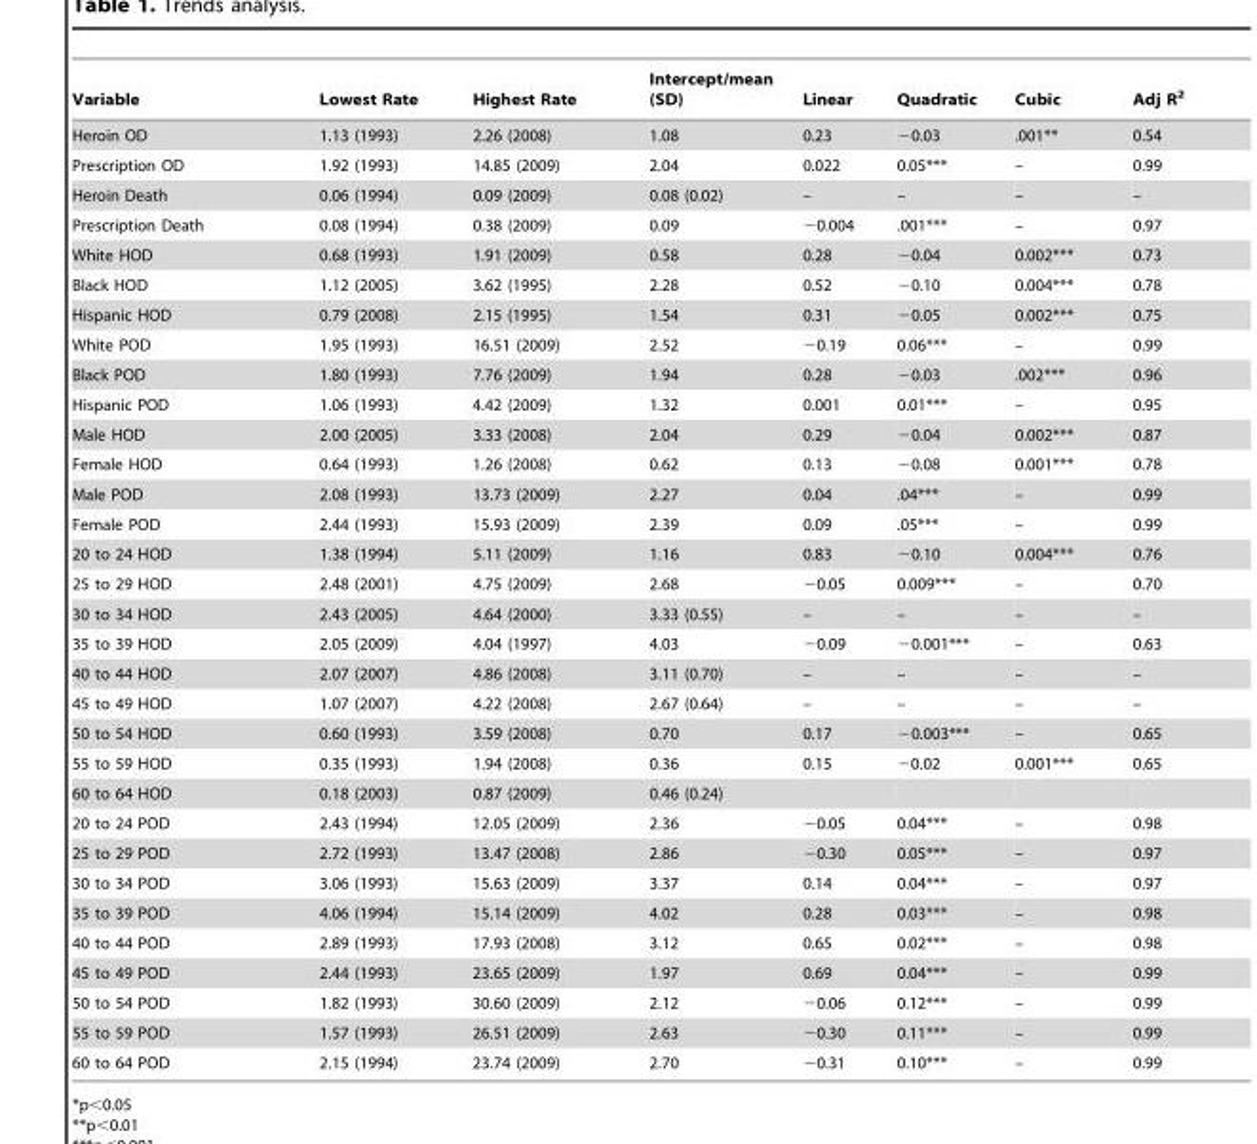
<table><thead><tr><td>Variable</td><td>Lowest Rate</td><td>Highest Rate</td><td>Intercept/mean (SD)</td><td>Linear</td><td>Quadratic</td><td>Cubic</td><td>Adj R<sup>2</sup></td></tr></thead><tbody><tr><td>Heroin OD</td><td>1.13 (1993)</td><td>2.26 (2008)</td><td>1.08</td><td>0.23</td><td>−0.03</td><td>.001**</td><td>0.54</td></tr><tr><td>Prescription OD</td><td>1.92 (1993)</td><td>14.85 (2009)</td><td>2.04</td><td>0.022</td><td>0.05***</td><td>–</td><td>0.99</td></tr><tr><td>Heroin Death</td><td>0.06 (1994)</td><td>0.09 (2009)</td><td>0.08 (0.02)</td><td>–</td><td>–</td><td>–</td><td>–</td></tr><tr><td>Prescription Death</td><td>0.08 (1994)</td><td>0.38 (2009)</td><td>0.09</td><td>−0.004</td><td>.001***</td><td>–</td><td>0.97</td></tr><tr><td>White HOD</td><td>0.68 (1993)</td><td>1.91 (2009)</td><td>0.58</td><td>0.28</td><td>−0.04</td><td>0.002***</td><td>0.73</td></tr><tr><td>Black HOD</td><td>1.12 (2005)</td><td>3.62 (1995)</td><td>2.28</td><td>0.52</td><td>−0.10</td><td>0.004***</td><td>0.78</td></tr><tr><td>Hispanic HOD</td><td>0.79 (2008)</td><td>2.15 (1995)</td><td>1.54</td><td>0.31</td><td>−0.05</td><td>0.002***</td><td>0.75</td></tr><tr><td>White POD</td><td>1.95 (1993)</td><td>16.51 (2009)</td><td>2.52</td><td>−0.19</td><td>0.06***</td><td>–</td><td>0.99</td></tr><tr><td>Black POD</td><td>1.80 (1993)</td><td>7.76 (2009)</td><td>1.94</td><td>0.28</td><td>−0.03</td><td>.002***</td><td>0.96</td></tr><tr><td>Hispanic POD</td><td>1.06 (1993)</td><td>4.42 (2009)</td><td>1.32</td><td>0.001</td><td>0.01***</td><td>–</td><td>0.95</td></tr><tr><td>Male HOD</td><td>2.00 (2005)</td><td>3.33 (2008)</td><td>2.04</td><td>0.29</td><td>−0.04</td><td>0.002***</td><td>0.87</td></tr><tr><td>Female HOD</td><td>0.64 (1993)</td><td>1.26 (2008)</td><td>0.62</td><td>0.13</td><td>−0.08</td><td>0.001***</td><td>0.78</td></tr><tr><td>Male POD</td><td>2.08 (1993)</td><td>13.73 (2009)</td><td>2.27</td><td>0.04</td><td>.04***</td><td>–</td><td>0.99</td></tr><tr><td>Female POD</td><td>2.44 (1993)</td><td>15.93 (2009)</td><td>2.39</td><td>0.09</td><td>.05***</td><td>–</td><td>0.99</td></tr><tr><td>20 to 24 HOD</td><td>1.38 (1994)</td><td>5.11 (2009)</td><td>1.16</td><td>0.83</td><td>−0.10</td><td>0.004***</td><td>0.76</td></tr><tr><td>25 to 29 HOD</td><td>2.48 (2001)</td><td>4.75 (2009)</td><td>2.68</td><td>−0.05</td><td>0.009***</td><td>–</td><td>0.70</td></tr><tr><td>30 to 34 HOD</td><td>2.43 (2005)</td><td>4.64 (2000)</td><td>3.33 (0.55)</td><td>–</td><td>–</td><td>–</td><td>–</td></tr><tr><td>35 to 39 HOD</td><td>2.05 (2009)</td><td>4.04 (1997)</td><td>4.03</td><td>−0.09</td><td>−0.001***</td><td>–</td><td>0.63</td></tr><tr><td>40 to 44 HOD</td><td>2.07 (2007)</td><td>4.86 (2008)</td><td>3.11 (0.70)</td><td>–</td><td>–</td><td>–</td><td>–</td></tr><tr><td>45 to 49 HOD</td><td>1.07 (2007)</td><td>4.22 (2008)</td><td>2.67 (0.64)</td><td>–</td><td>–</td><td>–</td><td>–</td></tr><tr><td>50 to 54 HOD</td><td>0.60 (1993)</td><td>3.59 (2008)</td><td>0.70</td><td>0.17</td><td>−0.003***</td><td>–</td><td>0.65</td></tr><tr><td>55 to 59 HOD</td><td>0.35 (1993)</td><td>1.94 (2008)</td><td>0.36</td><td>0.15</td><td>−0.02</td><td>0.001***</td><td>0.65</td></tr><tr><td>60 to 64 HOD</td><td>0.18 (2003)</td><td>0.87 (2009)</td><td>0.46 (0.24)</td><td></td><td></td><td></td><td></td></tr><tr><td>20 to 24 POD</td><td>2.43 (1994)</td><td>12.05 (2009)</td><td>2.36</td><td>−0.05</td><td>0.04***</td><td>–</td><td>0.98</td></tr><tr><td>25 to 29 POD</td><td>2.72 (1993)</td><td>13.47 (2008)</td><td>2.86</td><td>−0.30</td><td>0.05***</td><td>–</td><td>0.97</td></tr><tr><td>30 to 34 POD</td><td>3.06 (1993)</td><td>15.63 (2009)</td><td>3.37</td><td>0.14</td><td>0.04***</td><td>–</td><td>0.97</td></tr><tr><td>35 to 39 POD</td><td>4.06 (1994)</td><td>15.14 (2009)</td><td>4.02</td><td>0.28</td><td>0.03***</td><td>–</td><td>0.98</td></tr><tr><td>40 to 44 POD</td><td>2.89 (1993)</td><td>17.93 (2008)</td><td>3.12</td><td>0.65</td><td>0.02***</td><td>–</td><td>0.98</td></tr><tr><td>45 to 49 POD</td><td>2.44 (1993)</td><td>23.65 (2009)</td><td>1.97</td><td>0.69</td><td>0.04***</td><td>–</td><td>0.99</td></tr><tr><td>50 to 54 POD</td><td>1.82 (1993)</td><td>30.60 (2009)</td><td>2.12</td><td>−0.06</td><td>0.12***</td><td>–</td><td>0.99</td></tr><tr><td>55 to 59 POD</td><td>1.57 (1993)</td><td>26.51 (2009)</td><td>2.63</td><td>−0.30</td><td>0.11***</td><td>–</td><td>0.99</td></tr><tr><td>60 to 64 POD</td><td>2.15 (1994)</td><td>23.74 (2009)</td><td>2.70</td><td>−0.31</td><td>0.10***</td><td>–</td><td>0.99</td></tr></tbody></table>